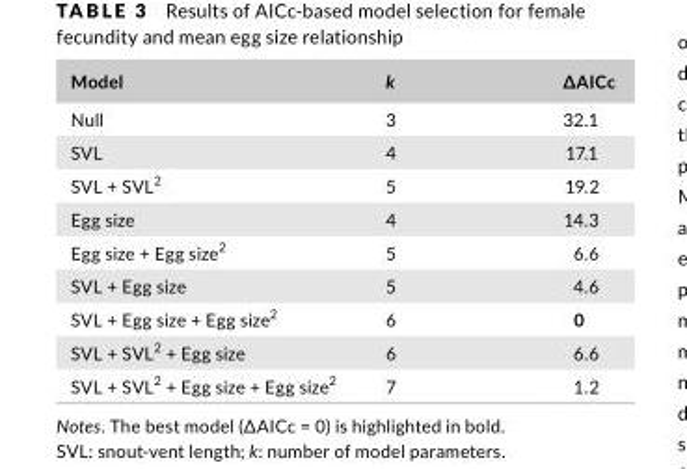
<table><thead><tr><td>Model</td><td>k</td><td>∆AICc</td></tr></thead><tbody><tr><td>Null</td><td>3</td><td>32.1</td></tr><tr><td>SVL</td><td>4</td><td>17.1</td></tr><tr><td>SVL + SVL<sup>2</sup></td><td>5</td><td>19.2</td></tr><tr><td>Egg size</td><td>4</td><td>14.3</td></tr><tr><td>Egg size + Egg size<sup>2</sup></td><td>5</td><td>6.6</td></tr><tr><td>SVL + Egg size</td><td>5</td><td>4.6</td></tr><tr><td>SVL + Egg size + Egg size<sup>2</sup></td><td>6</td><td>0</td></tr><tr><td>SVL + SVL<sup>2</sup> + Egg size</td><td>6</td><td>6.6</td></tr><tr><td>SVL + SVL<sup>2</sup> + Egg size + Egg size<sup>2</sup></td><td>7</td><td>1.2</td></tr></tbody></table>